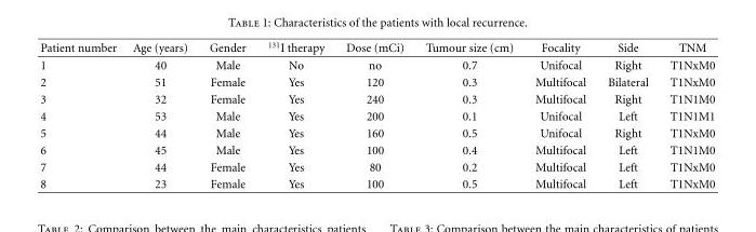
<table><thead><tr><td>Patient number</td><td>Age (years)</td><td>Gender</td><td><sup>131</sup>I therapy</td><td>Dose (mCi)</td><td>Tumour size (cm)</td><td>Focality</td><td>Side</td><td>TNM</td></tr></thead><tbody><tr><td>1</td><td>40</td><td>Male</td><td>No</td><td>no</td><td>0.7</td><td>Unifocal</td><td>Right</td><td>T1NxM0</td></tr><tr><td>2</td><td>51</td><td>Female</td><td>Yes</td><td>120</td><td>0.3</td><td>Multifocal</td><td>Bilateral</td><td>T1NxM0</td></tr><tr><td>3</td><td>32</td><td>Female</td><td>Yes</td><td>240</td><td>0.3</td><td>Multifocal</td><td>Right</td><td>T1N1M0</td></tr><tr><td>4</td><td>53</td><td>Male</td><td>Yes</td><td>200</td><td>0.1</td><td>Unifocal</td><td>Left</td><td>T1N1M1</td></tr><tr><td>5</td><td>44</td><td>Male</td><td>Yes</td><td>160</td><td>0.5</td><td>Unifocal</td><td>Right</td><td>T1NxM0</td></tr><tr><td>6</td><td>45</td><td>Male</td><td>Yes</td><td>100</td><td>0.4</td><td>Multifocal</td><td>Left</td><td>T1N1M0</td></tr><tr><td>7</td><td>44</td><td>Female</td><td>Yes</td><td>80</td><td>0.2</td><td>Multifocal</td><td>Left</td><td>T1NxM0</td></tr><tr><td>8</td><td>23</td><td>Female</td><td>Yes</td><td>100</td><td>0.5</td><td>Multifocal</td><td>Left</td><td>T1NxM0</td></tr></tbody></table>